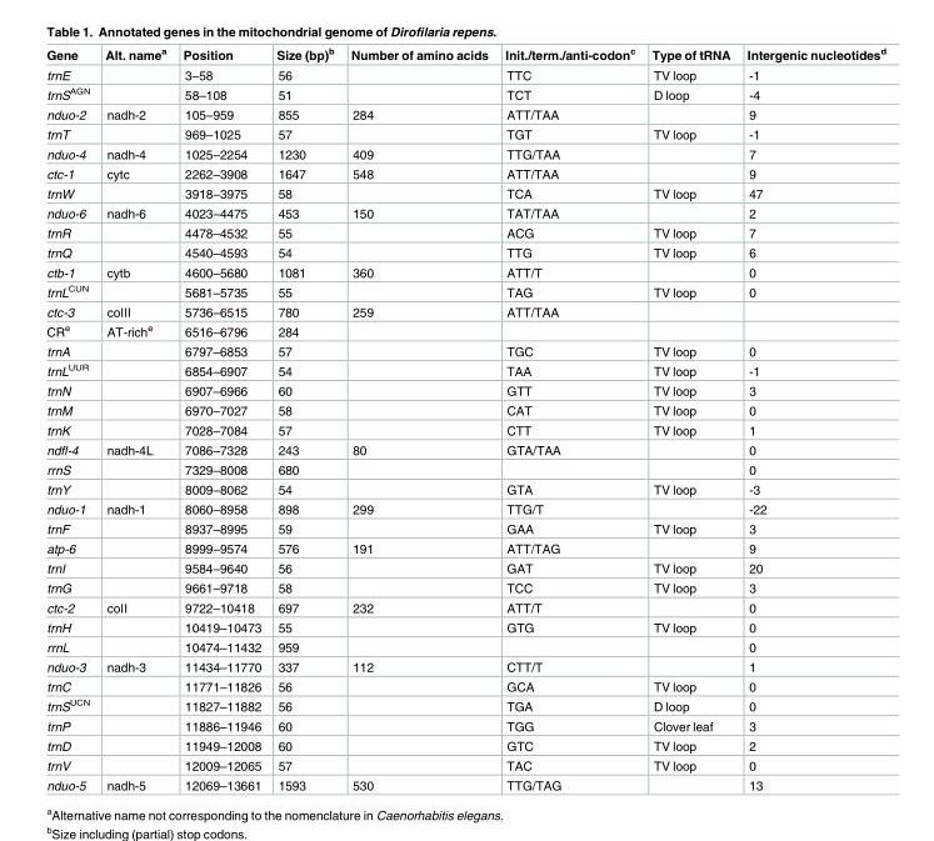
<table><thead><tr><td>Gene</td><td>Alt. name<sup>a</sup></td><td>Position</td><td>Size (bp)<sup>b</sup></td><td>Number of amino acids</td><td>Init./term./anti-codon<sup>c</sup></td><td>Type of tRNA</td><td>Intergenic nucleotides<sup>d</sup></td></tr></thead><tbody><tr><td>trnE</td><td></td><td>3–58</td><td>56</td><td></td><td>TTC</td><td>TV loop</td><td>-1</td></tr><tr><td>trnS<sup>AGN</sup></td><td></td><td>58–108</td><td>51</td><td></td><td>TCT</td><td>D loop</td><td>-4</td></tr><tr><td>nduo-2</td><td>nadh-2</td><td>105–959</td><td>855</td><td>284</td><td>ATT/TAA</td><td></td><td>9</td></tr><tr><td>trnT</td><td></td><td>969–1025</td><td>57</td><td></td><td>TGT</td><td>TV loop</td><td>-1</td></tr><tr><td>nduo-4</td><td>nadh-4</td><td>1025–2254</td><td>1230</td><td>409</td><td>TTG/TAA</td><td></td><td>7</td></tr><tr><td>ctc-1</td><td>cytc</td><td>2262–3908</td><td>1647</td><td>548</td><td>ATT/TAA</td><td></td><td>9</td></tr><tr><td>trnW</td><td></td><td>3918–3975</td><td>58</td><td></td><td>TCA</td><td>TV loop</td><td>47</td></tr><tr><td>nduo-6</td><td>nadh-6</td><td>4023–4475</td><td>453</td><td>150</td><td>TAT/TAA</td><td></td><td>2</td></tr><tr><td>trnR</td><td></td><td>4478–4532</td><td>55</td><td></td><td>ACG</td><td>TV loop</td><td>7</td></tr><tr><td>trnQ</td><td></td><td>4540–4593</td><td>54</td><td></td><td>TTG</td><td>TV loop</td><td>6</td></tr><tr><td>ctb-1</td><td>cytb</td><td>4600–5680</td><td>1081</td><td>360</td><td>ATT/T</td><td></td><td>0</td></tr><tr><td>trnL<sup>CUN</sup></td><td></td><td>5681–5735</td><td>55</td><td></td><td>TAG</td><td>TV loop</td><td>0</td></tr><tr><td>ctc-3</td><td>coIII</td><td>5736–6515</td><td>780</td><td>259</td><td>ATT/TAA</td><td></td><td></td></tr><tr><td>CR<sup>e</sup></td><td>AT-rich<sup>e</sup></td><td>6516–6796</td><td>284</td><td></td><td></td><td></td><td></td></tr><tr><td>trnA</td><td></td><td>6797–6853</td><td>57</td><td></td><td>TGC</td><td>TV loop</td><td>0</td></tr><tr><td>trnL<sup>UUR</sup></td><td></td><td>6854–6907</td><td>54</td><td></td><td>TAA</td><td>TV loop</td><td>-1</td></tr><tr><td>trnN</td><td></td><td>6907–6966</td><td>60</td><td></td><td>GTT</td><td>TV loop</td><td>3</td></tr><tr><td>trnM</td><td></td><td>6970–7027</td><td>58</td><td></td><td>CAT</td><td>TV loop</td><td>0</td></tr><tr><td>trnK</td><td></td><td>7028–7084</td><td>57</td><td></td><td>CTT</td><td>TV loop</td><td>1</td></tr><tr><td>ndfl-4</td><td>nadh-4L</td><td>7086–7328</td><td>243</td><td>80</td><td>GTA/TAA</td><td></td><td>0</td></tr><tr><td>rrnS</td><td></td><td>7329–8008</td><td>680</td><td></td><td></td><td></td><td>0</td></tr><tr><td>trnY</td><td></td><td>8009–8062</td><td>54</td><td></td><td>GTA</td><td>TV loop</td><td>-3</td></tr><tr><td>nduo-1</td><td>nadh-1</td><td>8060–8958</td><td>898</td><td>299</td><td>TTG/T</td><td></td><td>-22</td></tr><tr><td>trnF</td><td></td><td>8937–8995</td><td>59</td><td></td><td>GAA</td><td>TV loop</td><td>3</td></tr><tr><td>atp-6</td><td></td><td>8999–9574</td><td>576</td><td>191</td><td>ATT/TAG</td><td></td><td>9</td></tr><tr><td>trnI</td><td></td><td>9584–9640</td><td>56</td><td></td><td>GAT</td><td>TV loop</td><td>20</td></tr><tr><td>trnG</td><td></td><td>9661–9718</td><td>58</td><td></td><td>TCC</td><td>TV loop</td><td>3</td></tr><tr><td>ctc-2</td><td>coII</td><td>9722–10418</td><td>697</td><td>232</td><td>ATT/T</td><td></td><td>0</td></tr><tr><td>trnH</td><td></td><td>10419–10473</td><td>55</td><td></td><td>GTG</td><td>TV loop</td><td>0</td></tr><tr><td>rrnL</td><td></td><td>10474–11432</td><td>959</td><td></td><td></td><td></td><td>0</td></tr><tr><td>nduo-3</td><td>nadh-3</td><td>11434–11770</td><td>337</td><td>112</td><td>CTT/T</td><td></td><td>1</td></tr><tr><td>trnC</td><td></td><td>11771–11826</td><td>56</td><td></td><td>GCA</td><td>TV loop</td><td>0</td></tr><tr><td>trnS<sup>UCN</sup></td><td></td><td>11827–11882</td><td>56</td><td></td><td>TGA</td><td>D loop</td><td>0</td></tr><tr><td>trnP</td><td></td><td>11886–11946</td><td>60</td><td></td><td>TGG</td><td>Clover leaf</td><td>3</td></tr><tr><td>trnD</td><td></td><td>11949–12008</td><td>60</td><td></td><td>GTC</td><td>TV loop</td><td>2</td></tr><tr><td>trnV</td><td></td><td>12009–12065</td><td>57</td><td></td><td>TAC</td><td>TV loop</td><td>0</td></tr><tr><td>nduo-5</td><td>nadh-5</td><td>12069–13661</td><td>1593</td><td>530</td><td>TTG/TAG</td><td></td><td>13</td></tr></tbody></table>